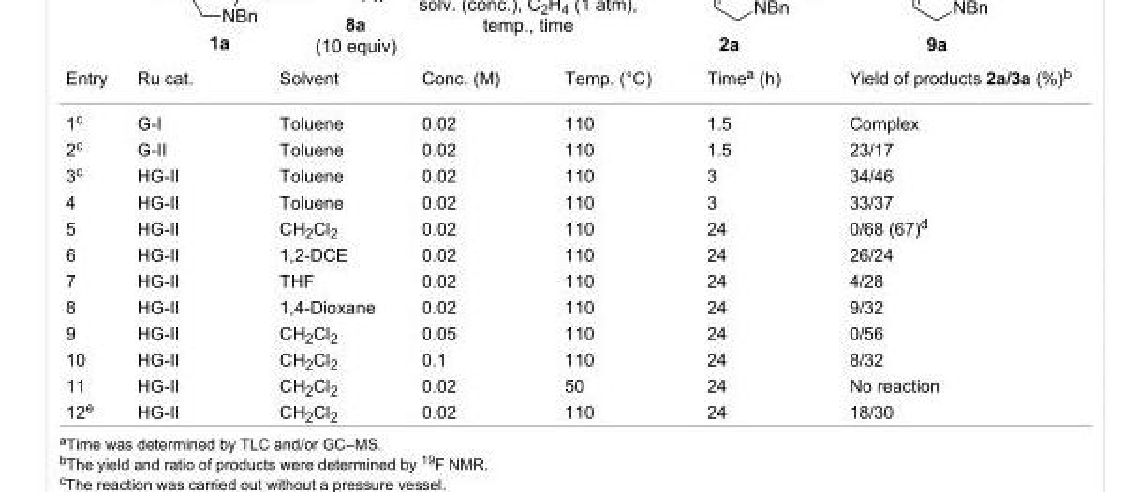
<table><tbody><tr><td>Entry</td><td>Ru cat.</td><td>Solvent</td><td>Conc. (M)</td><td>Temp. (°C)</td><td>Time<sup>a</sup> (h)</td><td>Yield of products 2a/3a (%)<sup>b</sup></td></tr><tr><td>1<sup>c</sup></td><td>G-I</td><td>Toluene</td><td>0.02</td><td>110</td><td>1.5</td><td>Complex</td></tr><tr><td>2<sup>c</sup></td><td>G-II</td><td>Toluene</td><td>0.02</td><td>110</td><td>1.5</td><td>23/17</td></tr><tr><td>3<sup>c</sup></td><td>HG-II</td><td>Toluene</td><td>0.02</td><td>110</td><td>3</td><td>34/46</td></tr><tr><td>4</td><td>HG-II</td><td>Toluene</td><td>0.02</td><td>110</td><td>3</td><td>33/37</td></tr><tr><td>5</td><td>HG-II</td><td>CH<sub>2</sub>Cl<sub>2</sub></td><td>0.02</td><td>110</td><td>24</td><td>0/68 (67)<sup>d</sup></td></tr><tr><td>6</td><td>HG-II</td><td>1,2-DCE</td><td>0.02</td><td>110</td><td>24</td><td>26/24</td></tr><tr><td>7</td><td>HG-II</td><td>THF</td><td>0.02</td><td>110</td><td>24</td><td>4/28</td></tr><tr><td>8</td><td>HG-II</td><td>1,4-Dioxane</td><td>0.02</td><td>110</td><td>24</td><td>9/32</td></tr><tr><td>9</td><td>HG-II</td><td>CH<sub>2</sub>Cl<sub>2</sub></td><td>0.05</td><td>110</td><td>24</td><td>0/56</td></tr><tr><td>10</td><td>HG-II</td><td>CH<sub>2</sub>Cl<sub>2</sub></td><td>0.1</td><td>110</td><td>24</td><td>8/32</td></tr><tr><td>11</td><td>HG-II</td><td>CH<sub>2</sub>Cl<sub>2</sub></td><td>0.02</td><td>50</td><td>24</td><td>No reaction</td></tr><tr><td>12<sup>e</sup></td><td>HG-II</td><td>CH<sub>2</sub>Cl<sub>2</sub></td><td>0.02</td><td>110</td><td>24</td><td>18/30</td></tr></tbody></table>